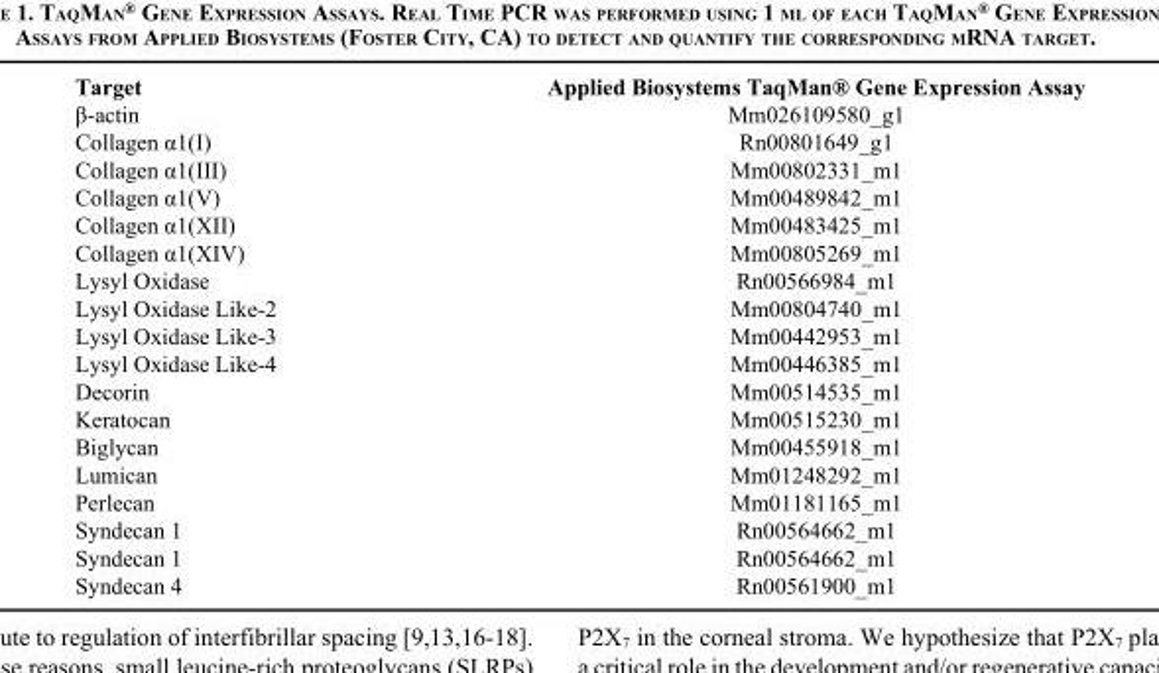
<table><thead><tr><td>Target</td><td>Applied Biosystems TaqMan® Gene Expression Assay</td></tr></thead><tbody><tr><td>β-actin</td><td>Mm026109580_g1</td></tr><tr><td>Collagen α1(I)</td><td>Rn00801649_g1</td></tr><tr><td>Collagen α1(III)</td><td>Mm00802331_m1</td></tr><tr><td>Collagen α1(V)</td><td>Mm00489842_m1</td></tr><tr><td>Collagen α1(XII)</td><td>Mm00483425_m1</td></tr><tr><td>Collagen α1(XIV)</td><td>Mm00805269_m1</td></tr><tr><td>Lysyl Oxidase</td><td>Rn00566984_m1</td></tr><tr><td>Lysyl Oxidase Like-2</td><td>Mm00804740_m1</td></tr><tr><td>Lysyl Oxidase Like-3</td><td>Mm00442953_m1</td></tr><tr><td>Lysyl Oxidase Like-4</td><td>Mm00446385_m1</td></tr><tr><td>Decorin</td><td>Mm00514535_m1</td></tr><tr><td>Keratocan</td><td>Mm00515230_m1</td></tr><tr><td>Biglycan</td><td>Mm00455918_m1</td></tr><tr><td>Lumican</td><td>Mm01248292_m1</td></tr><tr><td>Perlecan</td><td>Mm01181165_m1</td></tr><tr><td>Syndecan 1</td><td>Rn00564662_m1</td></tr><tr><td>Syndecan 1</td><td>Rn00564662_m1</td></tr><tr><td>Syndecan 4</td><td>Rn00561900_m1</td></tr></tbody></table>